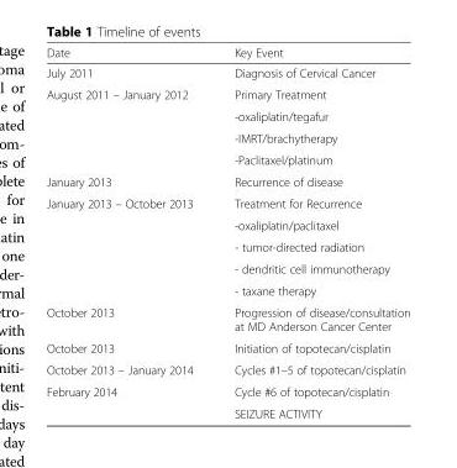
<table><thead><tr><td>Date</td><td>Key Event</td></tr></thead><tbody><tr><td>July 2011</td><td>Diagnosis of Cervical Cancer</td></tr><tr><td rowspan="4">August 2011 – January 2012</td><td>Primary Treatment</td></tr><tr><td>-oxaliplatin/tegafur</td></tr><tr><td>-IMRT/brachytherapy</td></tr><tr><td>-Paclitaxel/platinum</td></tr><tr><td>January 2013</td><td>Recurrence of disease</td></tr><tr><td rowspan="5">January 2013 – October 2013</td><td>Treatment for Recurrence</td></tr><tr><td>-oxaliplatin/paclitaxel</td></tr><tr><td>- tumor-directed radiation</td></tr><tr><td>- dendritic cell immunotherapy</td></tr><tr><td>- taxane therapy</td></tr><tr><td>October 2013</td><td>Progression of disease/consultation at MD Anderson Cancer Center</td></tr><tr><td>October 2013</td><td>Initiation of topotecan/cisplatin</td></tr><tr><td>October 2013 – January 2014</td><td>Cycles #1–5 of topotecan/cisplatin</td></tr><tr><td rowspan="2">February 2014</td><td>Cycle #6 of topotecan/cisplatin</td></tr><tr><td>SEIZURE ACTIVITY</td></tr></tbody></table>